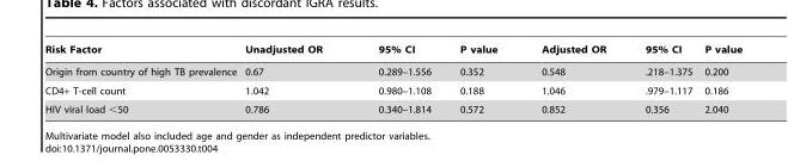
<table><thead><tr><td>Risk Factor</td><td>Unadjusted OR</td><td>95% CI</td><td>P value</td><td>Adjusted OR</td><td>95% CI</td><td>P value</td></tr></thead><tbody><tr><td>Origin from country of high TB prevalence</td><td>0.67</td><td>0.289–1.556</td><td>0.352</td><td>0.548</td><td>.218–1.375</td><td>0.200</td></tr><tr><td>CD4+ T-cell count</td><td>1.042</td><td>0.980–1.108</td><td>0.188</td><td>1.046</td><td>.979–1.117</td><td>0.186</td></tr><tr><td>HIV viral load &lt;50</td><td>0.786</td><td>0.340–1.814</td><td>0.572</td><td>0.852</td><td>0.356</td><td>2.040</td></tr></tbody></table>